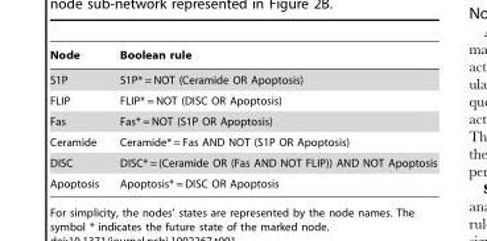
<table><thead><tr><td>Node</td><td>Boolean rule</td></tr></thead><tbody><tr><td>S1P</td><td>S1P* = NOT (Ceramide OR Apoptosis)</td></tr><tr><td>FLIP</td><td>FLIP* = NOT (DISC OR Apoptosis)</td></tr><tr><td>Fas</td><td>Fas* = NOT (S1P OR Apoptosis)</td></tr><tr><td>Ceramide</td><td>Ceramide* = Fas AND NOT (S1P OR Apoptosis)</td></tr><tr><td>DISC</td><td>DISC* = (Ceramide OR (Fas AND NOT FLIP)) AND NOT Apoptosis</td></tr><tr><td>Apoptosis</td><td>Apoptosis* = DISC OR Apoptosis</td></tr></tbody></table>